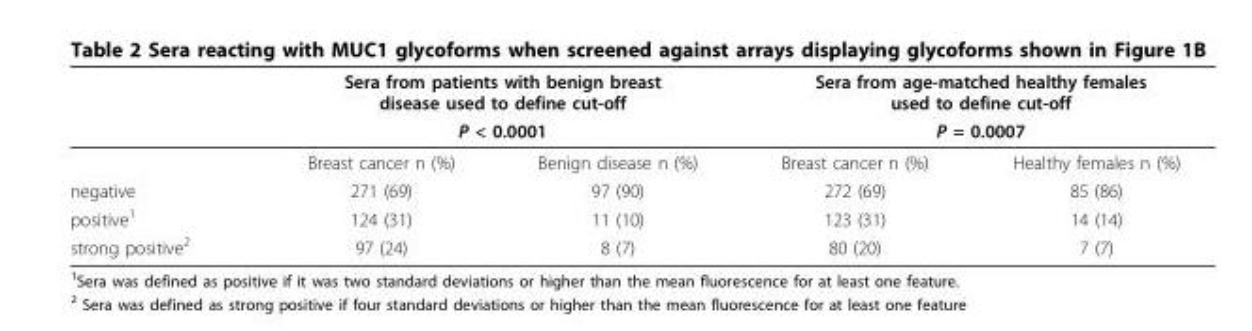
<table><thead><tr><td rowspan="3"></td><td rowspan="2" colspan="2">Sera from patients with benign breast disease used to define cut-off P &lt; 0.0001</td><td rowspan="2" colspan="2">Sera from age-matched healthy females used to define cut-off P = 0.0007</td></tr><tr></tr><tr><td>Breast cancer n (%)</td><td>Benign disease n (%)</td><td>Breast cancer n (%)</td><td>Healthy females n (%)</td></tr></thead><tbody><tr><td>negative</td><td>271 (69)</td><td>97 (90)</td><td>272 (69)</td><td>85 (86)</td></tr><tr><td>positive<sup>1</sup></td><td>124 (31)</td><td>11 (10)</td><td>123 (31)</td><td>14 (14)</td></tr><tr><td>strong positive<sup>2</sup></td><td>97 (24)</td><td>8 (7)</td><td>80 (20)</td><td>7 (7)</td></tr></tbody></table>